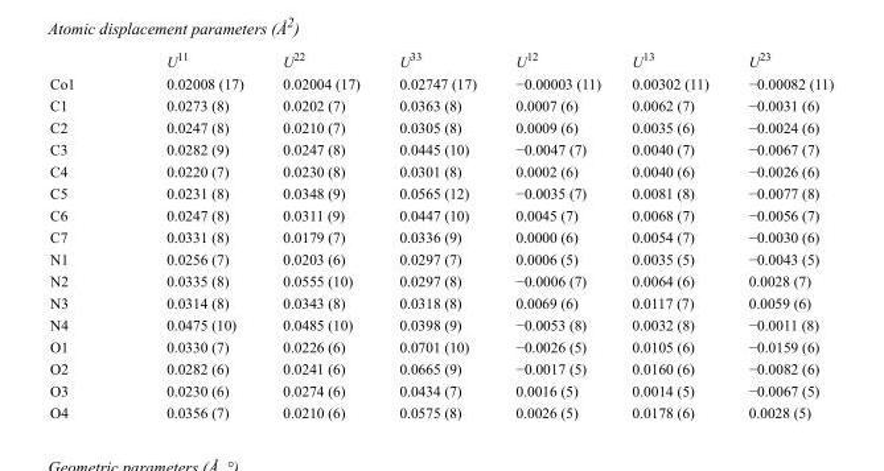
<table><thead><tr><td></td><td>U<sup>11</sup></td><td>U<sup>22</sup></td><td>U<sup>33</sup></td><td>U<sup>12</sup></td><td>U<sup>13</sup></td><td>U<sup>23</sup></td></tr></thead><tbody><tr><td>Co1</td><td>0.02008 (17)</td><td>0.02004 (17)</td><td>0.02747 (17)</td><td>−0.00003 (11)</td><td>0.00302 (11)</td><td>−0.00082 (11)</td></tr><tr><td>C1</td><td>0.0273 (8)</td><td>0.0202 (7)</td><td>0.0363 (8)</td><td>0.0007 (6)</td><td>0.0062 (7)</td><td>−0.0031 (6)</td></tr><tr><td>C2</td><td>0.0247 (8)</td><td>0.0210 (7)</td><td>0.0305 (8)</td><td>0.0009 (6)</td><td>0.0035 (6)</td><td>−0.0024 (6)</td></tr><tr><td>C3</td><td>0.0282 (9)</td><td>0.0247 (8)</td><td>0.0445 (10)</td><td>−0.0047 (7)</td><td>0.0040 (7)</td><td>−0.0067 (7)</td></tr><tr><td>C4</td><td>0.0220 (7)</td><td>0.0230 (8)</td><td>0.0301 (8)</td><td>0.0002 (6)</td><td>0.0040 (6)</td><td>−0.0026 (6)</td></tr><tr><td>C5</td><td>0.0231 (8)</td><td>0.0348 (9)</td><td>0.0565 (12)</td><td>−0.0035 (7)</td><td>0.0081 (8)</td><td>−0.0077 (8)</td></tr><tr><td>C6</td><td>0.0247 (8)</td><td>0.0311 (9)</td><td>0.0447 (10)</td><td>0.0045 (7)</td><td>0.0068 (7)</td><td>−0.0056 (7)</td></tr><tr><td>C7</td><td>0.0331 (8)</td><td>0.0179 (7)</td><td>0.0336 (9)</td><td>0.0000 (6)</td><td>0.0054 (7)</td><td>−0.0030 (6)</td></tr><tr><td>N1</td><td>0.0256 (7)</td><td>0.0203 (6)</td><td>0.0297 (7)</td><td>0.0006 (5)</td><td>0.0035 (5)</td><td>−0.0043 (5)</td></tr><tr><td>N2</td><td>0.0335 (8)</td><td>0.0555 (10)</td><td>0.0297 (8)</td><td>−0.0006 (7)</td><td>0.0064 (6)</td><td>0.0028 (7)</td></tr><tr><td>N3</td><td>0.0314 (8)</td><td>0.0343 (8)</td><td>0.0318 (8)</td><td>0.0069 (6)</td><td>0.0117 (7)</td><td>0.0059 (6)</td></tr><tr><td>N4</td><td>0.0475 (10)</td><td>0.0485 (10)</td><td>0.0398 (9)</td><td>−0.0053 (8)</td><td>0.0032 (8)</td><td>−0.0011 (8)</td></tr><tr><td>O1</td><td>0.0330 (7)</td><td>0.0226 (6)</td><td>0.0701 (10)</td><td>−0.0026 (5)</td><td>0.0105 (6)</td><td>−0.0159 (6)</td></tr><tr><td>O2</td><td>0.0282 (6)</td><td>0.0241 (6)</td><td>0.0665 (9)</td><td>−0.0017 (5)</td><td>0.0160 (6)</td><td>−0.0082 (6)</td></tr><tr><td>O3</td><td>0.0230 (6)</td><td>0.0274 (6)</td><td>0.0434 (7)</td><td>0.0016 (5)</td><td>0.0014 (5)</td><td>−0.0067 (5)</td></tr><tr><td>O4</td><td>0.0356 (7)</td><td>0.0210 (6)</td><td>0.0575 (8)</td><td>0.0026 (5)</td><td>0.0178 (6)</td><td>0.0028 (5)</td></tr></tbody></table>